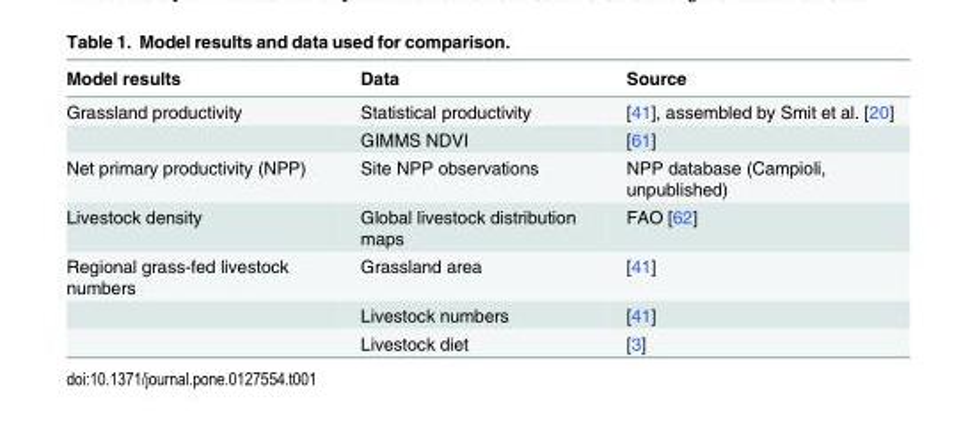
<table><thead><tr><td>Model results</td><td>Data</td><td>Source</td></tr></thead><tbody><tr><td rowspan="2">Grassland productivity</td><td>Statistical productivity</td><td>[41], assembled by Smit et al. [20]</td></tr><tr><td>GIMMS NDVI</td><td>[61]</td></tr><tr><td>Net primary productivity (NPP)</td><td>Site NPP observations</td><td>NPP database (Campioli, unpublished)</td></tr><tr><td>Livestock density</td><td>Global livestock distribution maps</td><td>FAO [62]</td></tr><tr><td rowspan="3">Regional grass-fed livestock numbers</td><td>Grassland area</td><td>[41]</td></tr><tr><td>Livestock numbers</td><td>[41]</td></tr><tr><td>Livestock diet</td><td>[3]</td></tr></tbody></table>